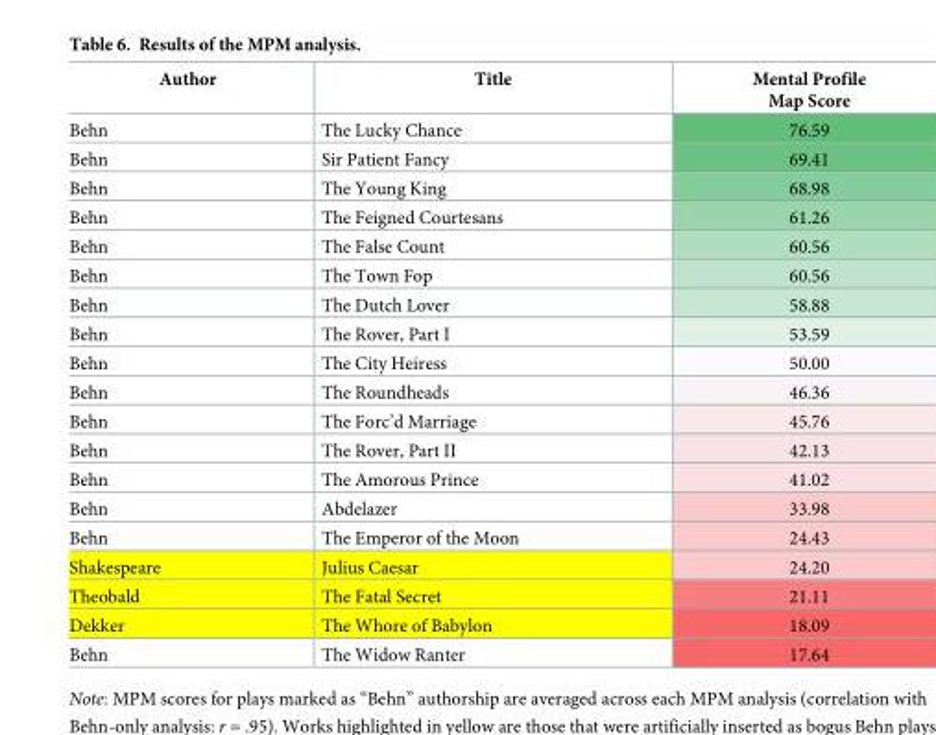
<table><thead><tr><td>Author</td><td>Title</td><td>Mental Profile Map Score</td></tr></thead><tbody><tr><td>Behn</td><td>The Lucky Chance</td><td>76.59</td></tr><tr><td>Behn</td><td>Sir Patient Fancy</td><td>69.41</td></tr><tr><td>Behn</td><td>The Young King</td><td>68.98</td></tr><tr><td>Behn</td><td>The Feigned Courtesans</td><td>61.26</td></tr><tr><td>Behn</td><td>The False Count</td><td>60.56</td></tr><tr><td>Behn</td><td>The Town Fop</td><td>60.56</td></tr><tr><td>Behn</td><td>The Dutch Lover</td><td>58.88</td></tr><tr><td>Behn</td><td>The Rover, Part I</td><td>53.59</td></tr><tr><td>Behn</td><td>The City Heiress</td><td>50.00</td></tr><tr><td>Behn</td><td>The Roundheads</td><td>46.36</td></tr><tr><td>Behn</td><td>The Forc’d Marriage</td><td>45.76</td></tr><tr><td>Behn</td><td>The Rover, Part II</td><td>42.13</td></tr><tr><td>Behn</td><td>The Amorous Prince</td><td>41.02</td></tr><tr><td>Behn</td><td>Abdelazer</td><td>33.98</td></tr><tr><td>Behn</td><td>The Emperor of the Moon</td><td>24.43</td></tr><tr><td>Shakespeare</td><td>Julius Caesar</td><td>24.20</td></tr><tr><td>Theobald</td><td>The Fatal Secret</td><td>21.11</td></tr><tr><td>Dekker</td><td>The Whore of Babylon</td><td>18.09</td></tr><tr><td>Behn</td><td>The Widow Ranter</td><td>17.64</td></tr></tbody></table>